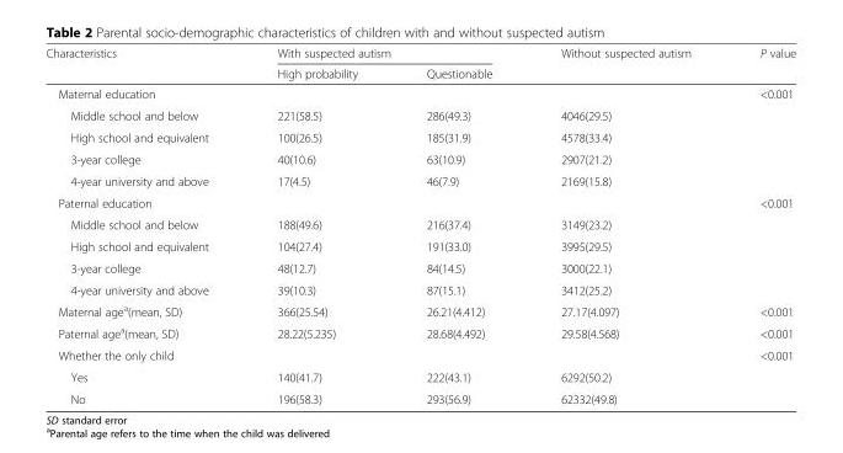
<table><thead><tr><td rowspan="2">Characteristics</td><td colspan="2">With suspected autism</td><td rowspan="2">Without suspected autism</td><td rowspan="2">P value</td></tr><tr><td>High probability</td><td>Questionable</td></tr></thead><tbody><tr><td>Maternal education</td><td></td><td></td><td></td><td>&lt;0.001</td></tr><tr><td>Middle school and below</td><td>221(58.5)</td><td>286(49.3)</td><td>4046(29.5)</td><td></td></tr><tr><td>High school and equivalent</td><td>100(26.5)</td><td>185(31.9)</td><td>4578(33.4)</td><td></td></tr><tr><td>3-year college</td><td>40(10.6)</td><td>63(10.9)</td><td>2907(21.2)</td><td></td></tr><tr><td>4-year university and above</td><td>17(4.5)</td><td>46(7.9)</td><td>2169(15.8)</td><td></td></tr><tr><td>Paternal education</td><td></td><td></td><td></td><td>&lt;0.001</td></tr><tr><td>Middle school and below</td><td>188(49.6)</td><td>216(37.4)</td><td>3149(23.2)</td><td></td></tr><tr><td>High school and equivalent</td><td>104(27.4)</td><td>191(33.0)</td><td>3995(29.5)</td><td></td></tr><tr><td>3-year college</td><td>48(12.7)</td><td>84(14.5)</td><td>3000(22.1)</td><td></td></tr><tr><td>4-year university and above</td><td>39(10.3)</td><td>87(15.1)</td><td>3412(25.2)</td><td></td></tr><tr><td>Maternal age<sup>a</sup>(mean, SD)</td><td>366(25.54)</td><td>26.21(4.412)</td><td>27.17(4.097)</td><td>&lt;0.001</td></tr><tr><td>Paternal age<sup>a</sup>(mean, SD)</td><td>28.22(5.235)</td><td>28.68(4.492)</td><td>29.58(4.568)</td><td>&lt;0.001</td></tr><tr><td>Whether the only child</td><td></td><td></td><td></td><td>&lt;0.001</td></tr><tr><td>Yes</td><td>140(41.7)</td><td>222(43.1)</td><td>6292(50.2)</td><td></td></tr><tr><td>No</td><td>196(58.3)</td><td>293(56.9)</td><td>62332(49.8)</td><td></td></tr></tbody></table>